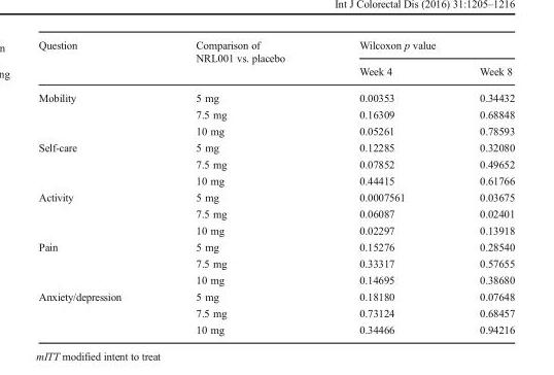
<table><thead><tr><td rowspan="2">Question</td><td rowspan="2">Comparison of NRL001 vs. placebo</td><td colspan="2">Wilcoxon p value</td></tr><tr><td>Week 4</td><td>Week 8</td></tr></thead><tbody><tr><td rowspan="3">Mobility</td><td>5 mg</td><td>0.00353</td><td>0.34432</td></tr><tr><td>7.5 mg</td><td>0.16309</td><td>0.68848</td></tr><tr><td>10 mg</td><td>0.05261</td><td>0.78593</td></tr><tr><td rowspan="3">Self-care</td><td>5 mg</td><td>0.12285</td><td>0.32080</td></tr><tr><td>7.5 mg</td><td>0.07852</td><td>0.49652</td></tr><tr><td>10 mg</td><td>0.44415</td><td>0.61766</td></tr><tr><td rowspan="3">Activity</td><td>5 mg</td><td>0.0007561</td><td>0.03675</td></tr><tr><td>7.5 mg</td><td>0.06087</td><td>0.02401</td></tr><tr><td>10 mg</td><td>0.02297</td><td>0.13918</td></tr><tr><td rowspan="3">Pain</td><td>5 mg</td><td>0.15276</td><td>0.28540</td></tr><tr><td>7.5 mg</td><td>0.33317</td><td>0.57655</td></tr><tr><td>10 mg</td><td>0.14695</td><td>0.38680</td></tr><tr><td rowspan="3">Anxiety/depression</td><td>5 mg</td><td>0.18180</td><td>0.07648</td></tr><tr><td>7.5 mg</td><td>0.73124</td><td>0.68457</td></tr><tr><td>10 mg</td><td>0.34466</td><td>0.94216</td></tr></tbody></table>